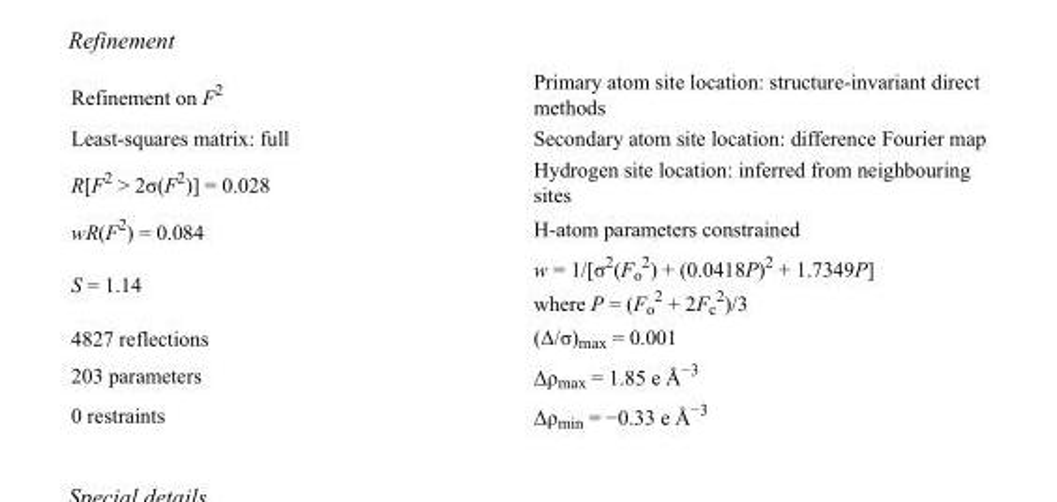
<table><tbody><tr><td>Refinement on F<sup>2</sup></td><td>Primary atom site location: structure-invariant direct methods</td></tr><tr><td>Least-squares matrix: full</td><td>Secondary atom site location: difference Fourier map</td></tr><tr><td>R[F<sup>2</sup> &gt; 2σ(F<sup>2</sup>)] = 0.028</td><td>Hydrogen site location: inferred from neighbouring sites</td></tr><tr><td>wR(F<sup>2</sup>) = 0.084</td><td>H-atom parameters constrained</td></tr><tr><td>S = 1.14</td><td>w = 1/[σ<sup>2</sup>(F<sub>o</sub> <sup>2</sup>) + (0.0418P)<sup>2</sup> + 1.7349P] where P = (F<sub>o</sub> <sup>2</sup> + 2F<sub>c</sub> <sup>2</sup>)/3</td></tr><tr><td>4827 reflections</td><td>(Δ/σ)<sub>max</sub> = 0.001</td></tr><tr><td>203 parameters</td><td>Δρ<sub>max</sub> = 1.85 e Å<sup>−3</sup></td></tr><tr><td>0 restraints</td><td>Δρ<sub>min</sub> = −0.33 e Å<sup>−3</sup></td></tr></tbody></table>